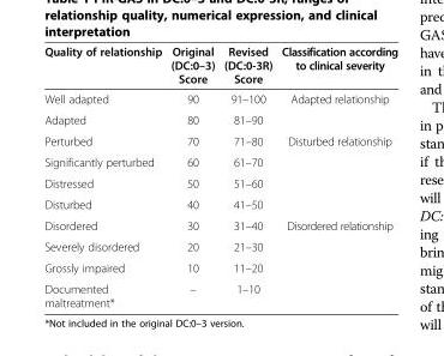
<table><thead><tr><td>Quality of relationship</td><td>Original (DC:0–3) Score</td><td>Revised (DC:0-3R) Score</td><td>Classification according to clinical severity</td></tr></thead><tbody><tr><td>Well adapted</td><td>90</td><td>91–100</td><td rowspan="2">Adapted relationship</td></tr><tr><td>Adapted</td><td>80</td><td>81–90</td></tr><tr><td>Perturbed</td><td>70</td><td>71–80</td><td rowspan="4">Disturbed relationship</td></tr><tr><td>Significantly perturbed</td><td>60</td><td>61–70</td></tr><tr><td>Distressed</td><td>50</td><td>51–60</td></tr><tr><td>Disturbed</td><td>40</td><td>41–50</td></tr><tr><td>Disordered</td><td>30</td><td>31–40</td><td rowspan="4">Disordered relationship</td></tr><tr><td>Severely disordered</td><td>20</td><td>21–30</td></tr><tr><td>Grossly impaired</td><td>10</td><td>11–20</td></tr><tr><td>Documented maltreatment*</td><td>–</td><td>1–10</td></tr></tbody></table>